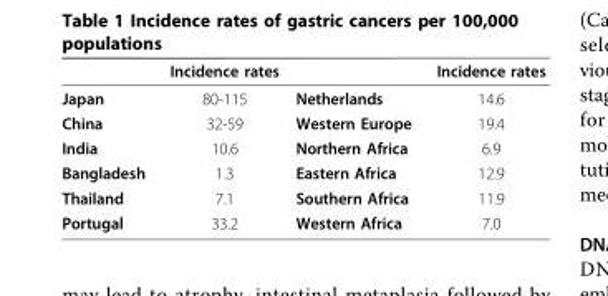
<table><thead><tr><td></td><td>Incidence rates</td><td></td><td>Incidence rates</td></tr></thead><tbody><tr><td>Japan</td><td>80-115</td><td>Netherlands</td><td>14.6</td></tr><tr><td>China</td><td>32-59</td><td>Western Europe</td><td>19.4</td></tr><tr><td>India</td><td>10.6</td><td>Northern Africa</td><td>6.9</td></tr><tr><td>Bangladesh</td><td>1.3</td><td>Eastern Africa</td><td>12.9</td></tr><tr><td>Thailand</td><td>7.1</td><td>Southern Africa</td><td>11.9</td></tr><tr><td>Portugal</td><td>33.2</td><td>Western Africa</td><td>7.0</td></tr></tbody></table>